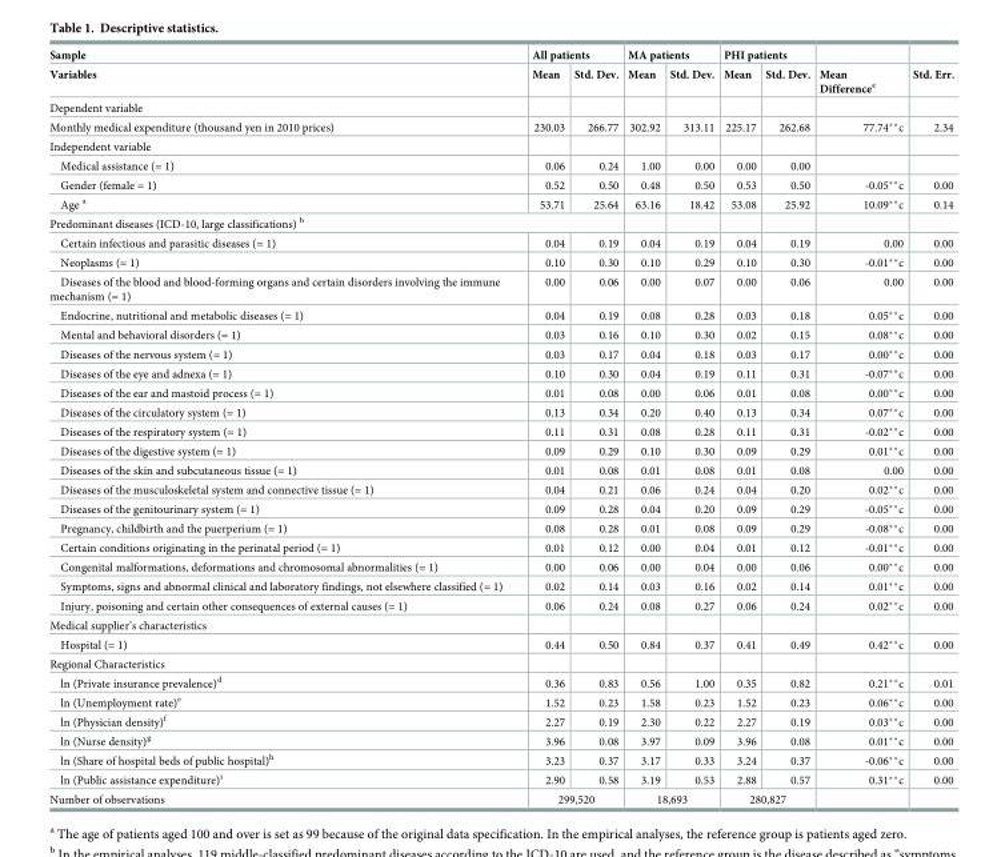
<table><thead><tr><td rowspan="2">Sample Variables</td><td colspan="2">All patients</td><td colspan="2">MA patients</td><td colspan="2">PHI patients</td><td rowspan="2">Mean Difference<sup>c</sup></td><td rowspan="2">Std. Err.</td></tr><tr><td>Mean</td><td>Std. Dev.</td><td>Mean</td><td>Std. Dev.</td><td>Mean</td><td>Std. Dev.</td></tr></thead><tbody><tr><td colspan="9">Dependent variable</td></tr><tr><td>Monthly medical expenditure (thousand yen in 2010 prices)</td><td>230.03</td><td>266.77</td><td>302.92</td><td>313.11</td><td>225.17</td><td>262.68</td><td>77.74**<sup>c</sup></td><td>2.34</td></tr><tr><td colspan="9">Independent variable</td></tr><tr><td>Medical assistance (= 1)</td><td>0.06</td><td>0.24</td><td>1.00</td><td>0.00</td><td>0.00</td><td>0.00</td><td></td><td></td></tr><tr><td>Gender (female = 1)</td><td>0.52</td><td>0.50</td><td>0.48</td><td>0.50</td><td>0.53</td><td>0.50</td><td>-0.05**<sup>c</sup></td><td>0.00</td></tr><tr><td>Age <sup>a</sup></td><td>53.71</td><td>25.64</td><td>63.16</td><td>18.42</td><td>53.08</td><td>25.92</td><td>10.09**<sup>c</sup></td><td>0.14</td></tr><tr><td colspan="9">Predominant diseases (ICD-10, large classifications) <sup>b</sup></td></tr><tr><td>Certain infectious and parasitic diseases (= 1)</td><td>0.04</td><td>0.19</td><td>0.04</td><td>0.19</td><td>0.04</td><td>0.19</td><td>0.00</td><td>0.00</td></tr><tr><td>Neoplasms (= 1)</td><td>0.10</td><td>0.30</td><td>0.10</td><td>0.29</td><td>0.10</td><td>0.30</td><td>-0.01**<sup>c</sup></td><td>0.00</td></tr><tr><td>Diseases of the blood and blood-forming organs and certain disorders involving the immune mechanism (= 1)</td><td>0.00</td><td>0.06</td><td>0.00</td><td>0.07</td><td>0.00</td><td>0.06</td><td>0.00</td><td>0.00</td></tr><tr><td>Endocrine, nutritional and metabolic diseases (= 1)</td><td>0.04</td><td>0.19</td><td>0.08</td><td>0.28</td><td>0.03</td><td>0.18</td><td>0.05**<sup>c</sup></td><td>0.00</td></tr><tr><td>Mental and behavioral disorders (= 1)</td><td>0.03</td><td>0.16</td><td>0.10</td><td>0.30</td><td>0.02</td><td>0.15</td><td>0.08**<sup>c</sup></td><td>0.00</td></tr><tr><td>Diseases of the nervous system (= 1)</td><td>0.03</td><td>0.17</td><td>0.04</td><td>0.18</td><td>0.03</td><td>0.17</td><td>0.00**<sup>c</sup></td><td>0.00</td></tr><tr><td>Diseases of the eye and adnexa (= 1)</td><td>0.10</td><td>0.30</td><td>0.04</td><td>0.19</td><td>0.11</td><td>0.31</td><td>-0.07**<sup>c</sup></td><td>0.00</td></tr><tr><td>Diseases of the ear and mastoid process (= 1)</td><td>0.01</td><td>0.08</td><td>0.00</td><td>0.06</td><td>0.01</td><td>0.08</td><td>0.00**<sup>c</sup></td><td>0.00</td></tr><tr><td>Diseases of the circulatory system (= 1)</td><td>0.13</td><td>0.34</td><td>0.20</td><td>0.40</td><td>0.13</td><td>0.34</td><td>0.07**<sup>c</sup></td><td>0.00</td></tr><tr><td>Diseases of the respiratory system (= 1)</td><td>0.11</td><td>0.31</td><td>0.08</td><td>0.28</td><td>0.11</td><td>0.31</td><td>-0.02**<sup>c</sup></td><td>0.00</td></tr><tr><td>Diseases of the digestive system (= 1)</td><td>0.09</td><td>0.29</td><td>0.10</td><td>0.30</td><td>0.09</td><td>0.29</td><td>0.01**<sup>c</sup></td><td>0.00</td></tr><tr><td>Diseases of the skin and subcutaneous tissue (= 1)</td><td>0.01</td><td>0.08</td><td>0.01</td><td>0.08</td><td>0.01</td><td>0.08</td><td>0.00</td><td>0.00</td></tr><tr><td>Diseases of the musculoskeletal system and connective tissue (= 1)</td><td>0.04</td><td>0.21</td><td>0.06</td><td>0.24</td><td>0.04</td><td>0.20</td><td>0.02**<sup>c</sup></td><td>0.00</td></tr><tr><td>Diseases of the genitourinary system (= 1)</td><td>0.09</td><td>0.28</td><td>0.04</td><td>0.20</td><td>0.09</td><td>0.29</td><td>-0.05**<sup>c</sup></td><td>0.00</td></tr><tr><td>Pregnancy, childbirth and the puerperium (= 1)</td><td>0.08</td><td>0.28</td><td>0.01</td><td>0.08</td><td>0.09</td><td>0.29</td><td>-0.08**<sup>c</sup></td><td>0.00</td></tr><tr><td>Certain conditions originating in the perinatal period (= 1)</td><td>0.01</td><td>0.12</td><td>0.00</td><td>0.04</td><td>0.01</td><td>0.12</td><td>-0.01**<sup>c</sup></td><td>0.00</td></tr><tr><td>Congenital malformations, deformations and chromosomal abnormalities (= 1)</td><td>0.00</td><td>0.06</td><td>0.00</td><td>0.04</td><td>0.00</td><td>0.06</td><td>0.00**<sup>c</sup></td><td>0.00</td></tr><tr><td>Symptoms, signs and abnormal clinical and laboratory findings, not elsewhere classified (= 1)</td><td>0.02</td><td>0.14</td><td>0.03</td><td>0.16</td><td>0.02</td><td>0.14</td><td>0.01**<sup>c</sup></td><td>0.00</td></tr><tr><td>Injury, poisoning and certain other consequences of external causes (= 1)</td><td>0.06</td><td>0.24</td><td>0.08</td><td>0.27</td><td>0.06</td><td>0.24</td><td>0.02**<sup>c</sup></td><td>0.00</td></tr><tr><td colspan="9">Medical supplier’s characteristics</td></tr><tr><td>Hospital (= 1)</td><td>0.44</td><td>0.50</td><td>0.84</td><td>0.37</td><td>0.41</td><td>0.49</td><td>0.42**<sup>c</sup></td><td>0.00</td></tr><tr><td colspan="9">Regional Characteristics</td></tr><tr><td>ln (Private insurance prevalence)<sup>d</sup></td><td>0.36</td><td>0.83</td><td>0.56</td><td>1.00</td><td>0.35</td><td>0.82</td><td>0.21**<sup>c</sup></td><td>0.01</td></tr><tr><td>ln (Unemployment rate)<sup>e</sup></td><td>1.52</td><td>0.23</td><td>1.58</td><td>0.23</td><td>1.52</td><td>0.23</td><td>0.06**<sup>c</sup></td><td>0.00</td></tr><tr><td>ln (Physician density)<sup>f</sup></td><td>2.27</td><td>0.19</td><td>2.30</td><td>0.22</td><td>2.27</td><td>0.19</td><td>0.03**<sup>c</sup></td><td>0.00</td></tr><tr><td>ln (Nurse density)<sup>g</sup></td><td>3.96</td><td>0.08</td><td>3.97</td><td>0.09</td><td>3.96</td><td>0.08</td><td>0.01**<sup>c</sup></td><td>0.00</td></tr><tr><td>ln (Share of hospital beds of public hospital)<sup>h</sup></td><td>3.23</td><td>0.37</td><td>3.17</td><td>0.33</td><td>3.24</td><td>0.37</td><td>-0.06**<sup>c</sup></td><td>0.00</td></tr><tr><td>ln (Public assistance expenditure)<sup>i</sup></td><td>2.90</td><td>0.58</td><td>3.19</td><td>0.53</td><td>2.88</td><td>0.57</td><td>0.31**<sup>c</sup></td><td>0.00</td></tr><tr><td>Number of observations</td><td colspan="2">299,520</td><td colspan="2">18,693</td><td colspan="2">280,827</td><td></td><td></td></tr></tbody></table>